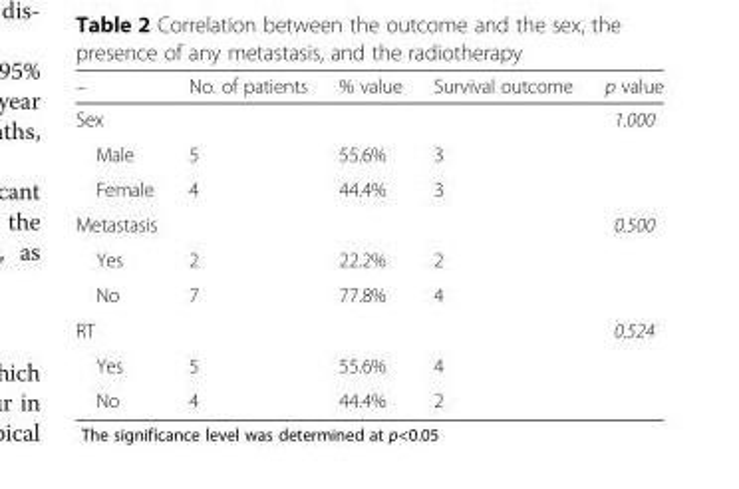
<table><thead><tr><td>–</td><td>No. of patients</td><td>% value</td><td>Survival outcome</td><td>p value</td></tr></thead><tbody><tr><td>Sex</td><td></td><td></td><td></td><td>1.000</td></tr><tr><td>Male</td><td>5</td><td>55.6%</td><td>3</td><td></td></tr><tr><td>Female</td><td>4</td><td>44.4%</td><td>3</td><td></td></tr><tr><td>Metastasis</td><td></td><td></td><td></td><td>0.500</td></tr><tr><td>Yes</td><td>2</td><td>22.2%</td><td>2</td><td></td></tr><tr><td>No</td><td>7</td><td>77.8%</td><td>4</td><td></td></tr><tr><td>RT</td><td></td><td></td><td></td><td>0.524</td></tr><tr><td>Yes</td><td>5</td><td>55.6%</td><td>4</td><td></td></tr><tr><td>No</td><td>4</td><td>44.4%</td><td>2</td><td></td></tr></tbody></table>